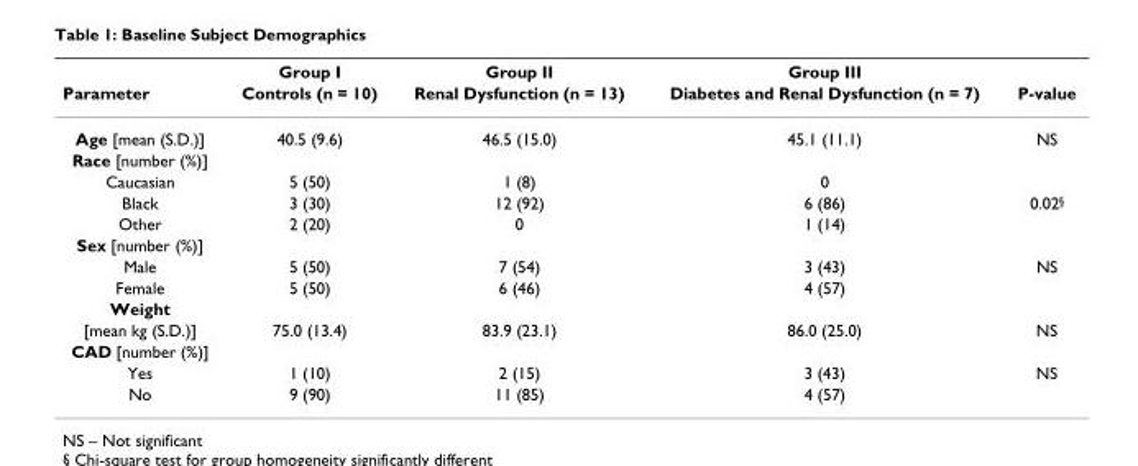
<table><thead><tr><td rowspan="2">Parameter</td><td rowspan="2">Group I Controls (n = 10)</td><td rowspan="2">Group II Renal Dysfunction (n = 13)</td><td rowspan="2">Group III Diabetes and Renal Dysfunction (n = 7)</td><td rowspan="2">P-value</td></tr><tr></tr></thead><tbody><tr><td>Age [mean (S.D.)]</td><td>40.5 (9.6)</td><td>46.5 (15.0)</td><td>45.1 (11.1)</td><td>NS</td></tr><tr><td colspan="5">Race [number (%)]</td></tr><tr><td>Caucasian</td><td>5 (50)</td><td>1 (8)</td><td>0</td><td></td></tr><tr><td>Black</td><td>3 (30)</td><td>12 (92)</td><td>6 (86)</td><td>0.02<sup>§</sup></td></tr><tr><td>Other</td><td>2 (20)</td><td>0</td><td>1 (14)</td><td></td></tr><tr><td colspan="5">Sex [number (%)]</td></tr><tr><td>Male</td><td>5 (50)</td><td>7 (54)</td><td>3 (43)</td><td>NS</td></tr><tr><td>Female</td><td>5 (50)</td><td>6 (46)</td><td>4 (57)</td><td></td></tr><tr><td colspan="5">Weight</td></tr><tr><td>[mean kg (S.D.)]</td><td>75.0 (13.4)</td><td>83.9 (23.1)</td><td>86.0 (25.0)</td><td>NS</td></tr><tr><td colspan="5">CAD [number (%)]</td></tr><tr><td>Yes</td><td>1 (10)</td><td>2 (15)</td><td>3 (43)</td><td>NS</td></tr><tr><td>No</td><td>9 (90)</td><td>11 (85)</td><td>4 (57)</td><td></td></tr></tbody></table>